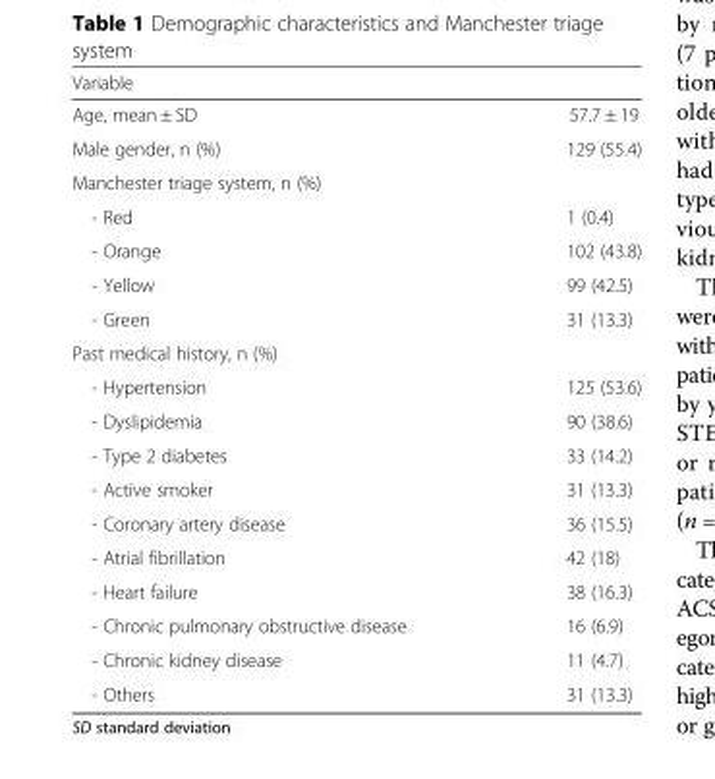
<table><thead><tr><td>Variable</td><td></td></tr></thead><tbody><tr><td>Age, mean ± SD</td><td>57.7 ± 19</td></tr><tr><td>Male gender, n (%)</td><td>129 (55.4)</td></tr><tr><td colspan="2">Manchester triage system, n (%)</td></tr><tr><td>- Red</td><td>1 (0.4)</td></tr><tr><td>- Orange</td><td>102 (43.8)</td></tr><tr><td>- Yellow</td><td>99 (42.5)</td></tr><tr><td>- Green</td><td>31 (13.3)</td></tr><tr><td colspan="2">Past medical history, n (%)</td></tr><tr><td>- Hypertension</td><td>125 (53.6)</td></tr><tr><td>- Dyslipidemia</td><td>90 (38.6)</td></tr><tr><td>- Type 2 diabetes</td><td>33 (14.2)</td></tr><tr><td>- Active smoker</td><td>31 (13.3)</td></tr><tr><td>- Coronary artery disease</td><td>36 (15.5)</td></tr><tr><td>- Atrial fibrillation</td><td>42 (18)</td></tr><tr><td>- Heart failure</td><td>38 (16.3)</td></tr><tr><td>- Chronic pulmonary obstructive disease</td><td>16 (6.9)</td></tr><tr><td>- Chronic kidney disease</td><td>11 (4.7)</td></tr><tr><td>- Others</td><td>31 (13.3)</td></tr></tbody></table>